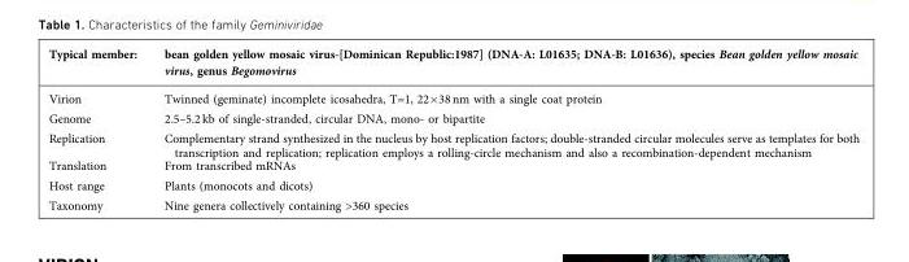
<table><thead><tr><td>Typical member:</td><td>bean golden yellow mosaic virus-[Dominican Republic:1987] (DNA-A: L01635; DNA-B: L01636), species Bean golden yellow mosaic virus, genus Begomovirus</td></tr></thead><tbody><tr><td>Virion</td><td>Twinned (geminate) incomplete icosahedra, T=1, 22×38 nm with a single coat protein</td></tr><tr><td>Genome</td><td>2.5–5.2 kb of single-stranded, circular DNA, mono- or bipartite</td></tr><tr><td>Replication</td><td>Complementary strand synthesized in the nucleus by host replication factors; double-stranded circular molecules serve as templates for both transcription and replication; replication employs a rolling-circle mechanism and also a recombination-dependent mechanism</td></tr><tr><td>Translation</td><td>From transcribed mRNAs</td></tr><tr><td>Host range</td><td>Plants (monocots and dicots)</td></tr><tr><td>Taxonomy</td><td>Nine genera collectively containing &gt;360 species</td></tr></tbody></table>